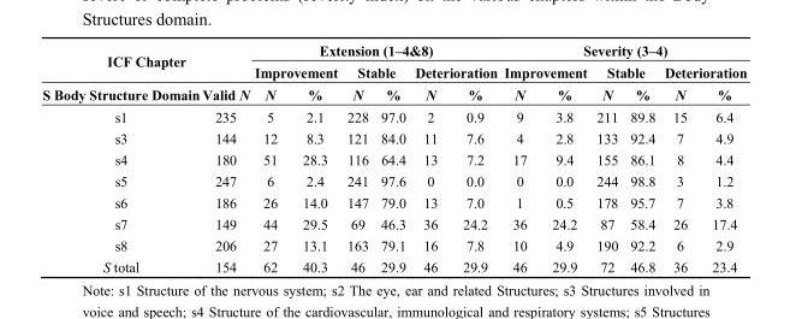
<table><thead><tr><td rowspan="2" colspan="2">ICF Chapter</td><td colspan="6">Extension (1–4&amp;8)</td><td colspan="6">Severity (3–4)</td></tr><tr><td colspan="2">Improvement</td><td colspan="2">Stable</td><td colspan="2">Deterioration</td><td colspan="2">Improvement</td><td colspan="2">Stable</td><td colspan="2">Deterioration</td></tr><tr><td>S Body Structure Domain</td><td>Valid N</td><td>N</td><td>%</td><td>N</td><td>%</td><td>N</td><td>%</td><td>N</td><td>%</td><td>N</td><td>%</td><td>N</td><td>%</td></tr></thead><tbody><tr><td>s1</td><td>235</td><td>5</td><td>2.1</td><td>228</td><td>97.0</td><td>2</td><td>0.9</td><td>9</td><td>3.8</td><td>211</td><td>89.8</td><td>15</td><td>6.4</td></tr><tr><td>s3</td><td>144</td><td>12</td><td>8.3</td><td>121</td><td>84.0</td><td>11</td><td>7.6</td><td>4</td><td>2.8</td><td>133</td><td>92.4</td><td>7</td><td>4.9</td></tr><tr><td>s4</td><td>180</td><td>51</td><td>28.3</td><td>116</td><td>64.4</td><td>13</td><td>7.2</td><td>17</td><td>9.4</td><td>155</td><td>86.1</td><td>8</td><td>4.4</td></tr><tr><td>s5</td><td>247</td><td>6</td><td>2.4</td><td>241</td><td>97.6</td><td>0</td><td>0.0</td><td>0</td><td>0.0</td><td>244</td><td>98.8</td><td>3</td><td>1.2</td></tr><tr><td>s6</td><td>186</td><td>26</td><td>14.0</td><td>147</td><td>79.0</td><td>13</td><td>7.0</td><td>1</td><td>0.5</td><td>178</td><td>95.7</td><td>7</td><td>3.8</td></tr><tr><td>s7</td><td>149</td><td>44</td><td>29.5</td><td>69</td><td>46.3</td><td>36</td><td>24.2</td><td>36</td><td>24.2</td><td>87</td><td>58.4</td><td>26</td><td>17.4</td></tr><tr><td>s8</td><td>206</td><td>27</td><td>13.1</td><td>163</td><td>79.1</td><td>16</td><td>7.8</td><td>10</td><td>4.9</td><td>190</td><td>92.2</td><td>6</td><td>2.9</td></tr><tr><td>S total</td><td>154</td><td>62</td><td>40.3</td><td>46</td><td>29.9</td><td>46</td><td>29.9</td><td>46</td><td>29.9</td><td>72</td><td>46.8</td><td>36</td><td>23.4</td></tr></tbody></table>